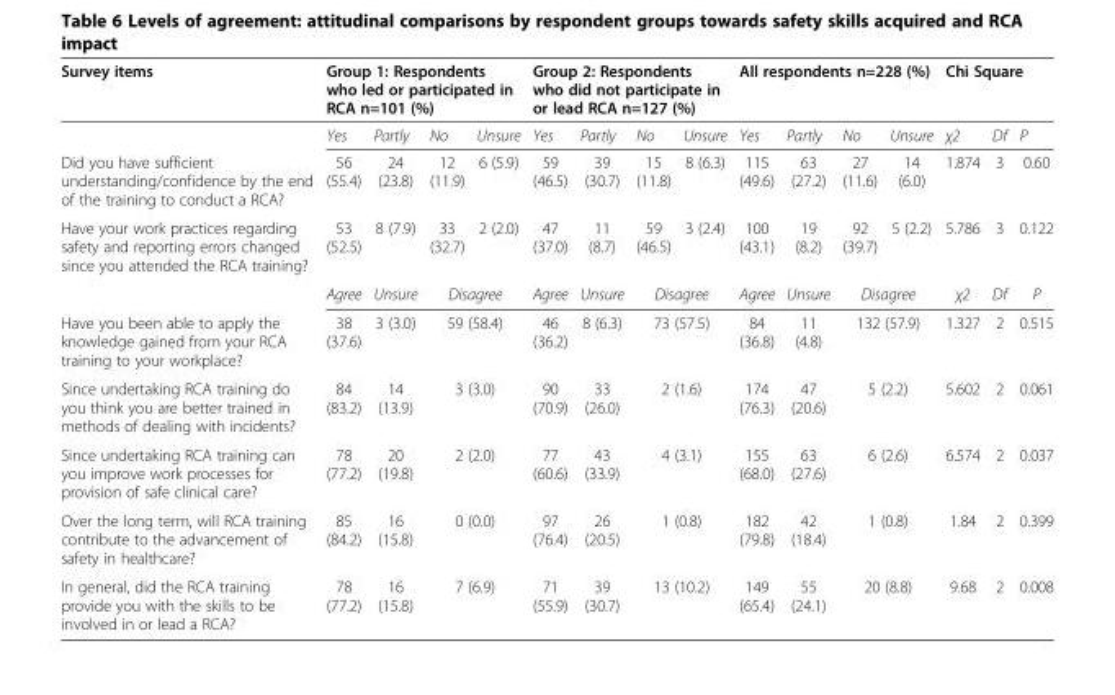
<table><thead><tr><td rowspan="2">Survey items</td><td colspan="4">Group 1: Respondents who led or participated in RCA n=101 (%)</td><td colspan="4">Group 2: Respondents who did not participate in or lead RCA n=127 (%)</td><td colspan="4">All respondents n=228 (%)</td><td colspan="3">Chi Square</td></tr><tr><td>Yes</td><td>Partly</td><td>No</td><td>Unsure</td><td>Yes</td><td>Partly</td><td>No</td><td>Unsure</td><td>Yes</td><td>Partly</td><td>No</td><td>Unsure</td><td>χ2</td><td>Df</td><td>P</td></tr></thead><tbody><tr><td>Did you have sufficient understanding/confidence by the end of the training to conduct a RCA?</td><td>56 (55.4)</td><td>24 (23.8)</td><td>12 (11.9)</td><td>6 (5.9)</td><td>59 (46.5)</td><td>39 (30.7)</td><td>15 (11.8)</td><td>8 (6.3)</td><td>115 (49.6)</td><td>63 (27.2)</td><td>27 (11.6)</td><td>14 (6.0)</td><td>1.874</td><td>3</td><td>0.60</td></tr><tr><td rowspan="2">Have your work practices regarding safety and reporting errors changed since you attended the RCA training?</td><td>53 (52.5)</td><td>8 (7.9)</td><td>33 (32.7)</td><td>2 (2.0)</td><td>47 (37.0)</td><td>11 (8.7)</td><td>59 (46.5)</td><td>3 (2.4)</td><td>100 (43.1)</td><td>19 (8.2)</td><td>92 (39.7)</td><td>5 (2.2)</td><td>5.786</td><td>3</td><td>0.122</td></tr><tr><td>Agree</td><td>Unsure</td><td colspan="2">Disagree</td><td>Agree</td><td>Unsure</td><td colspan="2">Disagree</td><td>Agree</td><td>Unsure</td><td colspan="2">Disagree</td><td>χ2</td><td>Df</td><td>P</td></tr><tr><td>Have you been able to apply the knowledge gained from your RCA training to your workplace?</td><td>38 (37.6)</td><td>3 (3.0)</td><td colspan="2">59 (58.4)</td><td>46 (36.2)</td><td>8 (6.3)</td><td colspan="2">73 (57.5)</td><td>84 (36.8)</td><td>11 (4.8)</td><td colspan="2">132 (57.9)</td><td>1.327</td><td>2</td><td>0.515</td></tr><tr><td>Since undertaking RCA training do you think you are better trained in methods of dealing with incidents?</td><td>84 (83.2)</td><td>14 (13.9)</td><td colspan="2">3 (3.0)</td><td>90 (70.9)</td><td>33 (26.0)</td><td colspan="2">2 (1.6)</td><td>174 (76.3)</td><td>47 (20.6)</td><td colspan="2">5 (2.2)</td><td>5.602</td><td>2</td><td>0.061</td></tr><tr><td>Since undertaking RCA training can you improve work processes for provision of safe clinical care?</td><td>78 (77.2)</td><td>20 (19.8)</td><td colspan="2">2 (2.0)</td><td>77 (60.6)</td><td>43 (33.9)</td><td colspan="2">4 (3.1)</td><td>155 (68.0)</td><td>63 (27.6)</td><td colspan="2">6 (2.6)</td><td>6.574</td><td>2</td><td>0.037</td></tr><tr><td>Over the long term, will RCA training contribute to the advancement of safety in healthcare?</td><td>85 (84.2)</td><td>16 (15.8)</td><td colspan="2">0 (0.0)</td><td>97 (76.4)</td><td>26 (20.5)</td><td colspan="2">1 (0.8)</td><td>182 (79.8)</td><td>42 (18.4)</td><td colspan="2">1 (0.8)</td><td>1.84</td><td>2</td><td>0.399</td></tr><tr><td>In general, did the RCA training provide you with the skills to be involved in or lead a RCA?</td><td>78 (77.2)</td><td>16 (15.8)</td><td colspan="2">7 (6.9)</td><td>71 (55.9)</td><td>39 (30.7)</td><td colspan="2">13 (10.2)</td><td>149 (65.4)</td><td>55 (24.1)</td><td colspan="2">20 (8.8)</td><td>9.68</td><td>2</td><td>0.008</td></tr></tbody></table>